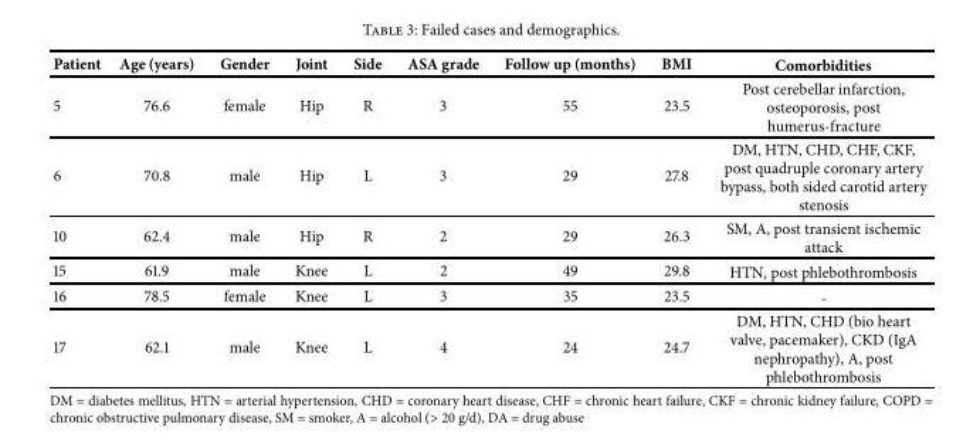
<table><thead><tr><td>Patient</td><td>Age (years)</td><td>Gender</td><td>Joint</td><td>Side</td><td>ASA grade</td><td>Follow up (months)</td><td>BMI</td><td>Comorbidities</td></tr></thead><tbody><tr><td>5</td><td>76.6</td><td>female</td><td>Hip</td><td>R</td><td>3</td><td>55</td><td>23.5</td><td>Post cerebellar infarction, osteoporosis, post humerus-fracture</td></tr><tr><td>6</td><td>70.8</td><td>male</td><td>Hip</td><td>L</td><td>3</td><td>29</td><td>27.8</td><td>DM, HTN, CHD, CHF, CKF, post quadruple coronary artery bypass, both sided carotid artery stenosis</td></tr><tr><td>10</td><td>62.4</td><td>male</td><td>Hip</td><td>R</td><td>2</td><td>29</td><td>26.3</td><td>SM, A, post transient ischemic attack</td></tr><tr><td>15</td><td>61.9</td><td>male</td><td>Knee</td><td>L</td><td>2</td><td>49</td><td>29.8</td><td>HTN, post phlebothrombosis</td></tr><tr><td>16</td><td>78.5</td><td>female</td><td>Knee</td><td>L</td><td>3</td><td>35</td><td>23.5</td><td>-</td></tr><tr><td>17</td><td>62.1</td><td>male</td><td>Knee</td><td>L</td><td>4</td><td>24</td><td>24.7</td><td>DM, HTN, CHD (bio heart valve, pacemaker), CKD (IgA nephropathy), A, post phlebothrombosis</td></tr></tbody></table>